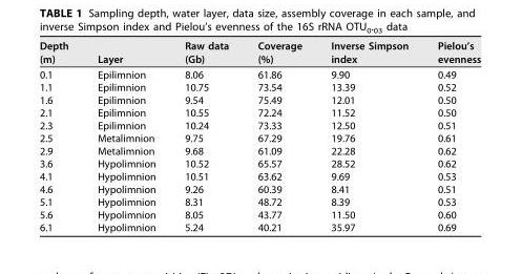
<table><thead><tr><td>Depth (m)</td><td>Layer</td><td>Raw data (Gb)</td><td>Coverage (%)</td><td>Inverse Simpson index</td><td>Pielou’s evenness</td></tr></thead><tbody><tr><td>0.1</td><td>Epilimnion</td><td>8.06</td><td>61.86</td><td>9.90</td><td>0.49</td></tr><tr><td>1.1</td><td>Epilimnion</td><td>10.75</td><td>73.54</td><td>13.39</td><td>0.52</td></tr><tr><td>1.6</td><td>Epilimnion</td><td>9.54</td><td>75.49</td><td>12.01</td><td>0.50</td></tr><tr><td>2.1</td><td>Epilimnion</td><td>10.55</td><td>72.24</td><td>11.52</td><td>0.50</td></tr><tr><td>2.3</td><td>Epilimnion</td><td>10.24</td><td>73.33</td><td>12.50</td><td>0.51</td></tr><tr><td>2.5</td><td>Metalimnion</td><td>9.75</td><td>67.29</td><td>19.76</td><td>0.61</td></tr><tr><td>2.9</td><td>Metalimnion</td><td>9.68</td><td>61.09</td><td>22.28</td><td>0.62</td></tr><tr><td>3.6</td><td>Hypolimnion</td><td>10.52</td><td>65.57</td><td>28.52</td><td>0.62</td></tr><tr><td>4.1</td><td>Hypolimnion</td><td>10.51</td><td>63.62</td><td>9.69</td><td>0.53</td></tr><tr><td>4.6</td><td>Hypolimnion</td><td>9.26</td><td>60.39</td><td>8.41</td><td>0.51</td></tr><tr><td>5.1</td><td>Hypolimnion</td><td>8.31</td><td>48.72</td><td>8.39</td><td>0.53</td></tr><tr><td>5.6</td><td>Hypolimnion</td><td>8.05</td><td>43.77</td><td>11.50</td><td>0.60</td></tr><tr><td>6.1</td><td>Hypolimnion</td><td>5.24</td><td>40.21</td><td>35.97</td><td>0.69</td></tr></tbody></table>